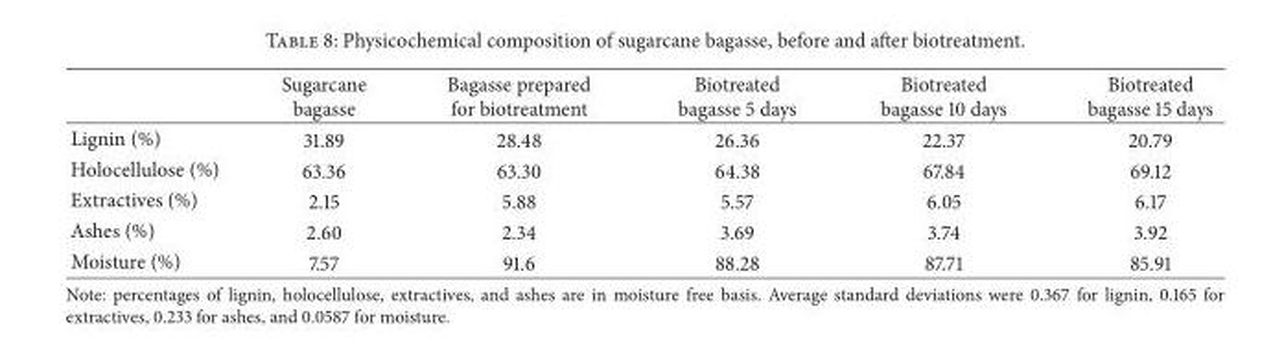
<table><thead><tr><td></td><td>Sugarcane bagasse</td><td>Bagasse prepared for biotreatment</td><td>Biotreated bagasse 5 days</td><td>Biotreated bagasse 10 days</td><td>Biotreated bagasse 15 days</td></tr></thead><tbody><tr><td>Lignin (%)</td><td>31.89</td><td>28.48</td><td>26.36</td><td>22.37</td><td>20.79</td></tr><tr><td>Holocellulose (%)</td><td>63.36</td><td>63.30</td><td>64.38</td><td>67.84</td><td>69.12</td></tr><tr><td>Extractives (%)</td><td>2.15</td><td>5.88</td><td>5.57</td><td>6.05</td><td>6.17</td></tr><tr><td>Ashes (%)</td><td>2.60</td><td>2.34</td><td>3.69</td><td>3.74</td><td>3.92</td></tr><tr><td>Moisture (%)</td><td>7.57</td><td>91.6</td><td>88.28</td><td>87.71</td><td>85.91</td></tr></tbody></table>